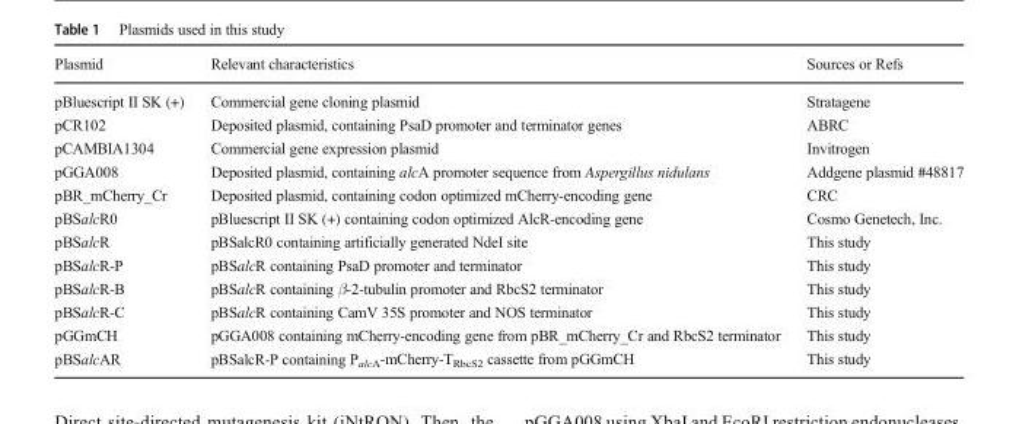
<table><thead><tr><td>Plasmid</td><td>Relevant characteristics</td><td>Sources or Refs</td></tr></thead><tbody><tr><td>pBluescript II SK (+)</td><td>Commercial gene cloning plasmid</td><td>Stratagene</td></tr><tr><td>pCR102</td><td>Deposited plasmid, containing PsaD promoter and terminator genes</td><td>ABRC</td></tr><tr><td>pCAMBIA1304</td><td>Commercial gene expression plasmid</td><td>Invitrogen</td></tr><tr><td>pGGA008</td><td>Deposited plasmid, containing alcA promoter sequence from Aspergillus nidulans</td><td>Addgene plasmid #48817</td></tr><tr><td>pBR_mCherry_Cr</td><td>Deposited plasmid, containing codon optimized mCherry-encoding gene</td><td>CRC</td></tr><tr><td>pBSalcR0</td><td>pBluescript II SK (+) containing codon optimized AlcR-encoding gene</td><td>Cosmo Genetech, Inc.</td></tr><tr><td>pBSalcR</td><td>pBSalcR0 containing artificially generated NdeI site</td><td>This study</td></tr><tr><td>pBSalcR-P</td><td>pBSalcR containing PsaD promoter and terminator</td><td>This study</td></tr><tr><td>pBSalcR-B</td><td>pBSalcR containing β-2-tubulin promoter and RbcS2 terminator</td><td>This study</td></tr><tr><td>pBSalcR-C</td><td>pBSalcR containing CamV 35S promoter and NOS terminator</td><td>This study</td></tr><tr><td>pGGmCH</td><td>pGGA008 containing mCherry-encoding gene from pBR_mCherry_Cr and RbcS2 terminator</td><td>This study</td></tr><tr><td>pBSalcAR</td><td>pBSalcR-P containing P<sub>alcA</sub>-mCherry-T<sub>RbcS2</sub> cassette from pGGmCH</td><td>This study</td></tr></tbody></table>